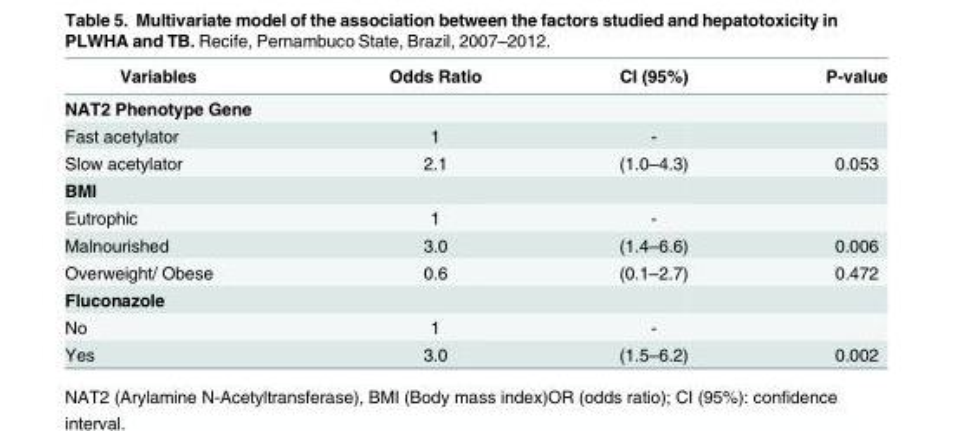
<table><thead><tr><td>Variables</td><td>Odds Ratio</td><td>CI (95%)</td><td>P-value</td></tr></thead><tbody><tr><td colspan="4">NAT2 Phenotype Gene</td></tr><tr><td>Fast acetylator</td><td>1</td><td>-</td><td></td></tr><tr><td>Slow acetylator</td><td>2.1</td><td>(1.0–4.3)</td><td>0.053</td></tr><tr><td colspan="4">BMI</td></tr><tr><td>Eutrophic</td><td>1</td><td>-</td><td></td></tr><tr><td>Malnourished</td><td>3.0</td><td>(1.4–6.6)</td><td>0.006</td></tr><tr><td>Overweight/ Obese</td><td>0.6</td><td>(0.1–2.7)</td><td>0.472</td></tr><tr><td colspan="4">Fluconazole</td></tr><tr><td>No</td><td>1</td><td>-</td><td></td></tr><tr><td>Yes</td><td>3.0</td><td>(1.5–6.2)</td><td>0.002</td></tr></tbody></table>